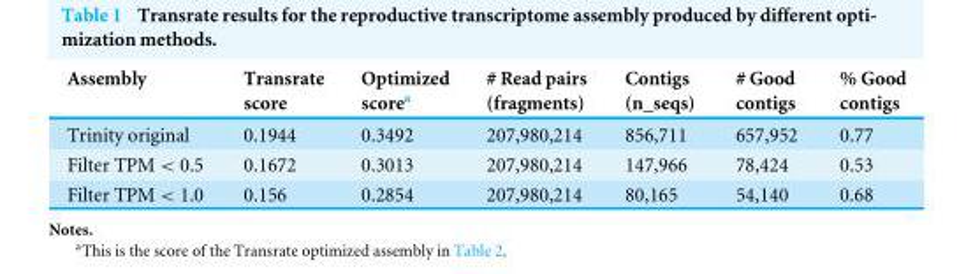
<table><thead><tr><td>Assembly</td><td>Transrate score</td><td>Optimized score<sup>a</sup></td><td># Read pairs (fragments)</td><td>Contigs (n_seqs)</td><td># Good contigs</td><td>% Good contigs</td></tr></thead><tbody><tr><td>Trinity original</td><td>0.1944</td><td>0.3492</td><td>207,980,214</td><td>856,711</td><td>657,952</td><td>0.77</td></tr><tr><td>Filter TPM &lt; 0.5</td><td>0.1672</td><td>0.3013</td><td>207,980,214</td><td>147,966</td><td>78,424</td><td>0.53</td></tr><tr><td>Filter TPM &lt; 1.0</td><td>0.156</td><td>0.2854</td><td>207,980,214</td><td>80,165</td><td>54,140</td><td>0.68</td></tr></tbody></table>